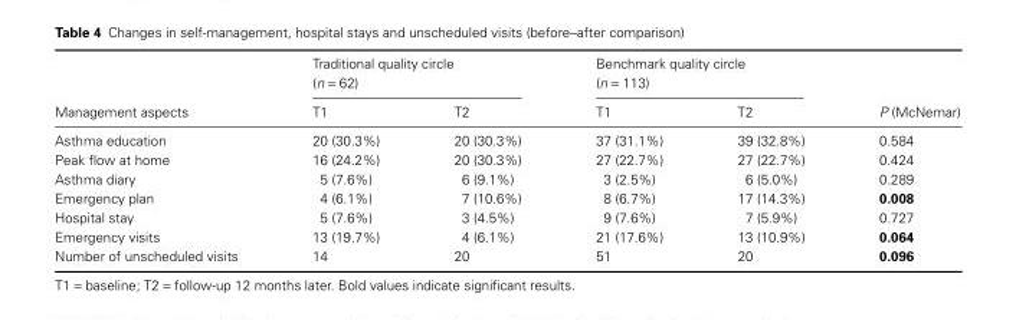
<table><thead><tr><td rowspan="2">Management aspects</td><td colspan="2">Traditional quality circle ( n = 62)</td><td colspan="2">Benchmark quality circle ( n = 113)</td><td rowspan="2">P (McNemar)</td></tr><tr><td>T1</td><td>T2</td><td>T1</td><td>T2</td></tr></thead><tbody><tr><td>Asthma education</td><td>20 (30.3%)</td><td>20 (30.3%)</td><td>37 (31.1%)</td><td>39 (32.8%)</td><td>0.584</td></tr><tr><td>Peak flow at home</td><td>16 (24.2%)</td><td>20 (30.3%)</td><td>27 (22.7%)</td><td>27 (22.7%)</td><td>0.424</td></tr><tr><td>Asthma diary</td><td>5 (7.6%)</td><td>6 (9.1%)</td><td>3 (2.5%)</td><td>6 (5.0%)</td><td>0.289</td></tr><tr><td>Emergency plan</td><td>4 (6.1%)</td><td>7 (10.6%)</td><td>8 (6.7%)</td><td>17 (14.3%)</td><td>0.008</td></tr><tr><td>Hospital stay</td><td>5 (7.6%)</td><td>3 (4.5%)</td><td>9 (7.6%)</td><td>7 (5.9%)</td><td>0.727</td></tr><tr><td>Emergency visits</td><td>13 (19.7%)</td><td>4 (6.1%)</td><td>21 (17.6%)</td><td>13 (10.9%)</td><td>0.064</td></tr><tr><td>Number of unscheduled visits</td><td>14</td><td>20</td><td>51</td><td>20</td><td>0.096</td></tr></tbody></table>